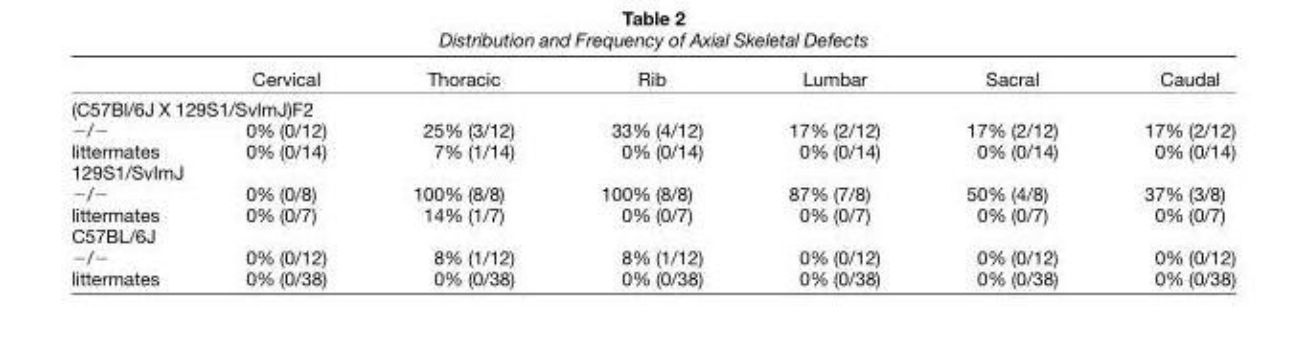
<table><thead><tr><td></td><td>Cervical</td><td>Thoracic</td><td>Rib</td><td>Lumbar</td><td>Sacral</td><td>Caudal</td></tr></thead><tbody><tr><td colspan="7">(C57Bl/6J X 129S1/SvImJ)F2</td></tr><tr><td>−/−</td><td>0% (0/12)</td><td>25% (3/12)</td><td>33% (4/12)</td><td>17% (2/12)</td><td>17% (2/12)</td><td>17% (2/12)</td></tr><tr><td>littermates</td><td>0% (0/14)</td><td>7% (1/14)</td><td>0% (0/14)</td><td>0% (0/14)</td><td>0% (0/14)</td><td>0% (0/14)</td></tr><tr><td colspan="7">129S1/SvImJ</td></tr><tr><td>−/−</td><td>0% (0/8)</td><td>100% (8/8)</td><td>100% (8/8)</td><td>87% (7/8)</td><td>50% (4/8)</td><td>37% (3/8)</td></tr><tr><td>littermates</td><td>0% (0/7)</td><td>14% (1/7)</td><td>0% (0/7)</td><td>0% (0/7)</td><td>0% (0/7)</td><td>0% (0/7)</td></tr><tr><td colspan="7">C57BL/6J</td></tr><tr><td>−/−</td><td>0% (0/12)</td><td>8% (1/12)</td><td>8% (1/12)</td><td>0% (0/12)</td><td>0% (0/12)</td><td>0% (0/12)</td></tr><tr><td>littermates</td><td>0% (0/38)</td><td>0% (0/38)</td><td>0% (0/38)</td><td>0% (0/38)</td><td>0% (0/38)</td><td>0% (0/38)</td></tr></tbody></table>